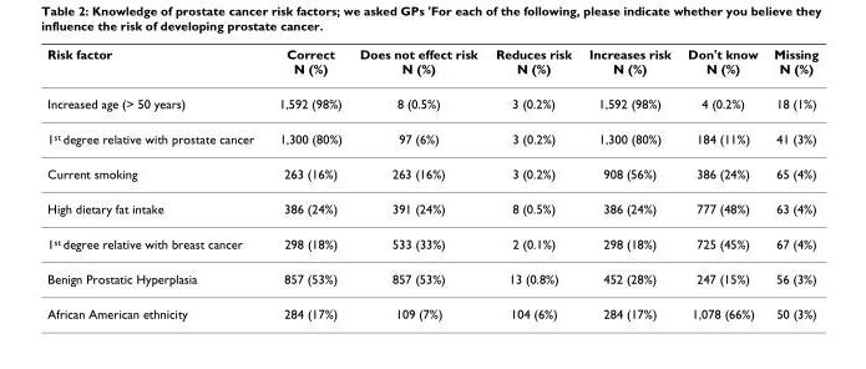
<table><thead><tr><td>Risk factor</td><td>Correct N (%)</td><td>Does not effect risk N (%)</td><td>Reduces risk N (%)</td><td>Increases risk N (%)</td><td>Don&#x27;t know N (%)</td><td>Missing N (%)</td></tr></thead><tbody><tr><td>Increased age (&gt; 50 years)</td><td>1,592 (98%)</td><td>8 (0.5%)</td><td>3 (0.2%)</td><td>1,592 (98%)</td><td>4 (0.2%)</td><td>18 (1%)</td></tr><tr><td>1<sup>st</sup> degree relative with prostate cancer</td><td>1,300 (80%)</td><td>97 (6%)</td><td>3 (0.2%)</td><td>1,300 (80%)</td><td>184 (11%)</td><td>41 (3%)</td></tr><tr><td>Current smoking</td><td>263 (16%)</td><td>263 (16%)</td><td>3 (0.2%)</td><td>908 (56%)</td><td>386 (24%)</td><td>65 (4%)</td></tr><tr><td>High dietary fat intake</td><td>386 (24%)</td><td>391 (24%)</td><td>8 (0.5%)</td><td>386 (24%)</td><td>777 (48%)</td><td>63 (4%)</td></tr><tr><td>1<sup>st</sup> degree relative with breast cancer</td><td>298 (18%)</td><td>533 (33%)</td><td>2 (0.1%)</td><td>298 (18%)</td><td>725 (45%)</td><td>67 (4%)</td></tr><tr><td>Benign Prostatic Hyperplasia</td><td>857 (53%)</td><td>857 (53%)</td><td>13 (0.8%)</td><td>452 (28%)</td><td>247 (15%)</td><td>56 (3%)</td></tr><tr><td>African American ethnicity</td><td>284 (17%)</td><td>109 (7%)</td><td>104 (6%)</td><td>284 (17%)</td><td>1,078 (66%)</td><td>50 (3%)</td></tr></tbody></table>